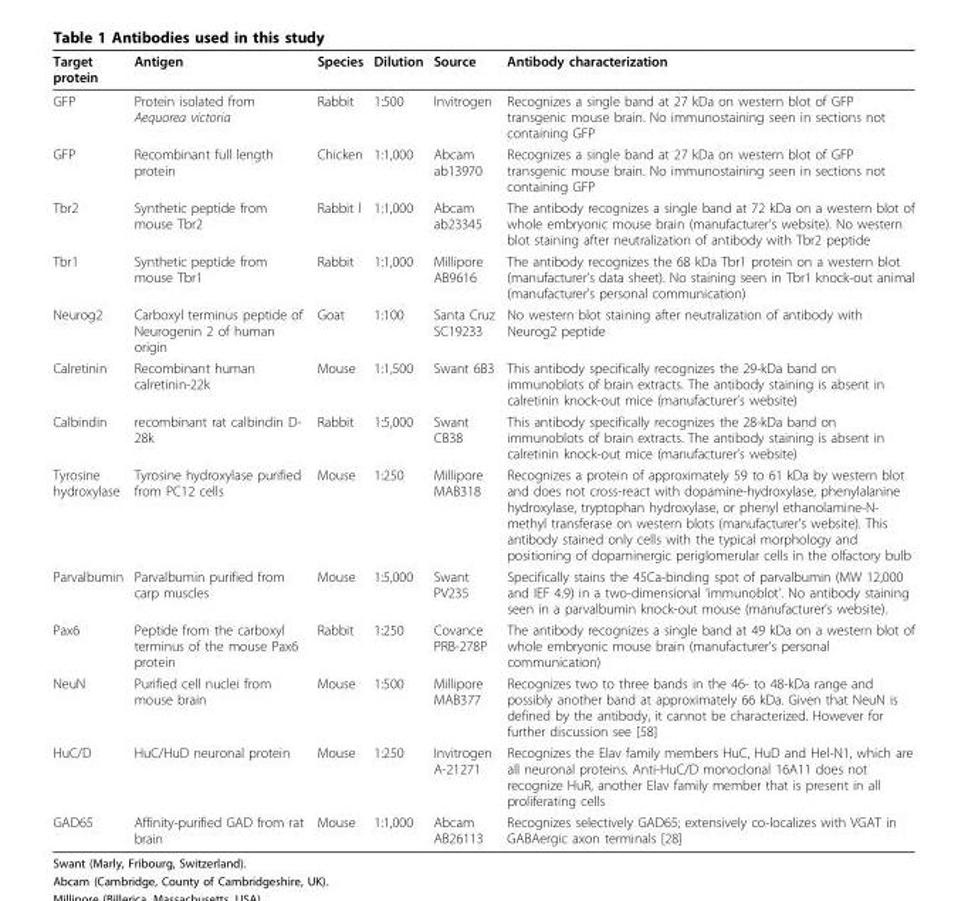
<table><thead><tr><td>Target protein</td><td>Antigen</td><td>Species</td><td>Dilution</td><td>Source</td><td>Antibody characterization</td></tr></thead><tbody><tr><td>GFP</td><td>Protein isolated from Aequorea victoria</td><td>Rabbit</td><td>1:500</td><td>Invitrogen</td><td>Recognizes a single band at 27 kDa on western blot of GFP transgenic mouse brain. No immunostaining seen in sections not containing GFP</td></tr><tr><td>GFP</td><td>Recombinant full length protein</td><td>Chicken</td><td>1:1,000</td><td>Abcam ab13970</td><td>Recognizes a single band at 27 kDa on western blot of GFP transgenic mouse brain. No immunostaining seen in sections not containing GFP</td></tr><tr><td>Tbr2</td><td>Synthetic peptide from mouse Tbr2</td><td>Rabbit l</td><td>1:1,000</td><td>Abcam ab23345</td><td>The antibody recognizes a single band at 72 kDa on a western blot of whole embryonic mouse brain (manufacturer’s website). No western blot staining after neutralization of antibody with Tbr2 peptide</td></tr><tr><td>Tbr1</td><td>Synthetic peptide from mouse Tbr1</td><td>Rabbit</td><td>1:1,000</td><td>Millipore AB9616</td><td>The antibody recognizes the 68 kDa Tbr1 protein on a western blot (manufacturer’s data sheet). No staining seen in Tbr1 knock-out animal (manufacturer’s personal communication)</td></tr><tr><td>Neurog2</td><td>Carboxyl terminus peptide of Neurogenin 2 of human origin</td><td>Goat</td><td>1:100</td><td>Santa Cruz SC19233</td><td>No western blot staining after neutralization of antibody with Neurog2 peptide</td></tr><tr><td>Calretinin</td><td>Recombinant human calretinin-22k</td><td>Mouse</td><td>1:1,500</td><td>Swant 6B3</td><td>This antibody specifically recognizes the 29-kDa band on immunoblots of brain extracts. The antibody staining is absent in calretinin knock-out mice (manufacturer’s website)</td></tr><tr><td>Calbindin</td><td>recombinant rat calbindin D- 28k</td><td>Rabbit</td><td>1:5,000</td><td>Swant CB38</td><td>This antibody specifically recognizes the 28-kDa band on immunoblots of brain extracts. The antibody staining is absent in calretinin knock-out mice (manufacturer’s website)</td></tr><tr><td>Tyrosine hydroxylase</td><td>Tyrosine hydroxylase purified from PC12 cells</td><td>Mouse</td><td>1:250</td><td>Millipore MAB318</td><td>Recognizes a protein of approximately 59 to 61 kDa by western blot and does not cross-react with dopamine-hydroxylase, phenylalanine hydroxylase, tryptophan hydroxylase, or phenyl ethanolamine-N- methyl transferase on western blots (manufacturer’s website). This antibody stained only cells with the typical morphology and positioning of dopaminergic periglomerular cells in the olfactory bulb</td></tr><tr><td>Parvalbumin</td><td>Parvalbumin purified from carp muscles</td><td>Mouse</td><td>1:5,000</td><td>Swant PV235</td><td>Specifically stains the 45Ca-binding spot of parvalbumin (MW 12,000 and IEF 4.9) in a two-dimensional ‘immunoblot’. No antibody staining seen in a parvalbumin knock-out mouse (manufacturer’s website).</td></tr><tr><td>Pax6</td><td>Peptide from the carboxyl terminus of the mouse Pax6 protein</td><td>Rabbit</td><td>1:250</td><td>Covance PRB-278P</td><td>The antibody recognizes a single band at 49 kDa on a western blot of whole embryonic mouse brain (manufacturer’s personal communication)</td></tr><tr><td>NeuN</td><td>Purified cell nuclei from mouse brain</td><td>Mouse</td><td>1:500</td><td>Millipore MAB377</td><td>Recognizes two to three bands in the 46- to 48-kDa range and possibly another band at approximately 66 kDa. Given that NeuN is defined by the antibody, it cannot be characterized. However for further discussion see [58]</td></tr><tr><td>HuC/D</td><td>HuC/HuD neuronal protein</td><td>Mouse</td><td>1:250</td><td>Invitrogen A-21271</td><td>Recognizes the Elav family members HuC, HuD and Hel-N1, which are all neuronal proteins. Anti-HuC/D monoclonal 16A11 does not recognize HuR, another Elav family member that is present in all proliferating cells</td></tr><tr><td>GAD65</td><td>Affinity-purified GAD from rat brain</td><td>Mouse</td><td>1:1,000</td><td>Abcam AB26113</td><td>Recognizes selectively GAD65; extensively co-localizes with VGAT in GABAergic axon terminals [28]</td></tr></tbody></table>